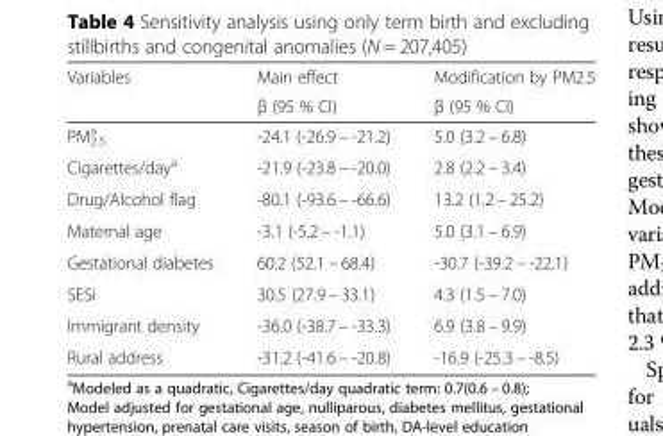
<table><thead><tr><td rowspan="2">Variables</td><td rowspan="2">Main effect β (95 % CI)</td><td rowspan="2">Modification by PM2.5 β (95 % CI)</td></tr><tr></tr></thead><tbody><tr><td>PM<sub>2.5</sub> <sup>a</sup></td><td>-24.1 (-26.9 – -21.2)</td><td>5.0 (3.2 – 6.8)</td></tr><tr><td>Cigarettes/day<sup>a</sup></td><td>-21.9 (-23.8 – -20.0)</td><td>2.8 (2.2 – 3.4)</td></tr><tr><td>Drug/Alcohol flag</td><td>-80.1 (-93.6 – -66.6)</td><td>13.2 (1.2 – 25.2)</td></tr><tr><td>Maternal age</td><td>-3.1 (-5.2 – -1.1)</td><td>5.0 (3.1 – 6.9)</td></tr><tr><td>Gestational diabetes</td><td>60.2 (52.1 – 68.4)</td><td>-30.7 (-39.2 – -22.1)</td></tr><tr><td>SESi</td><td>30.5 (27.9 – 33.1)</td><td>4.3 (1.5 – 7.0)</td></tr><tr><td>Immigrant density</td><td>-36.0 (-38.7 – -33.3)</td><td>6.9 (3.8 – 9.9)</td></tr><tr><td>Rural address</td><td>-31.2 (-41.6 – -20.8)</td><td>-16.9 (-25.3 – -8.5)</td></tr></tbody></table>